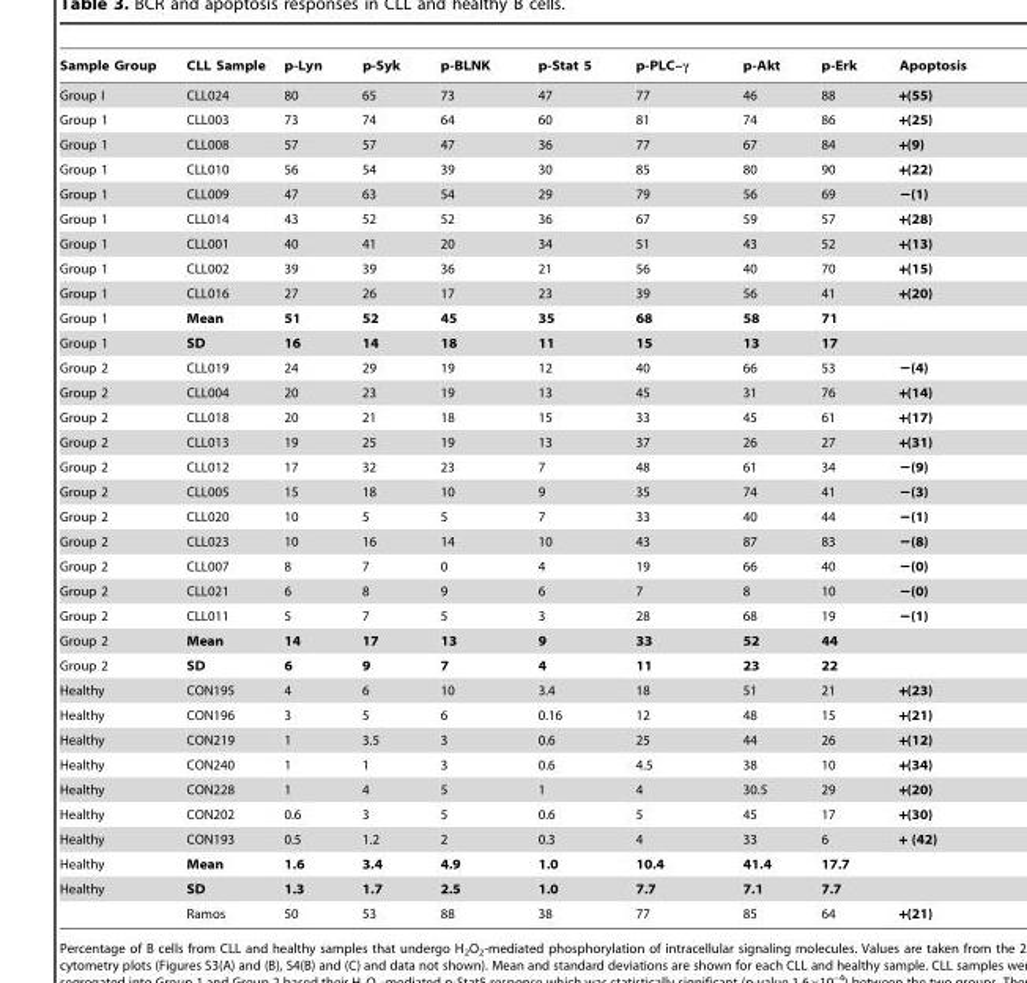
<table><thead><tr><td>Sample Group</td><td>CLL Sample</td><td>p-Lyn</td><td>p-Syk</td><td>p-BLNK</td><td>p-Stat 5</td><td>p-PLC–γ</td><td>p-Akt</td><td>p-Erk</td><td>Apoptosis</td></tr></thead><tbody><tr><td>Group I</td><td>CLL024</td><td>80</td><td>65</td><td>73</td><td>47</td><td>77</td><td>46</td><td>88</td><td>+(55)</td></tr><tr><td>Group 1</td><td>CLL003</td><td>73</td><td>74</td><td>64</td><td>60</td><td>81</td><td>74</td><td>86</td><td>+(25)</td></tr><tr><td>Group 1</td><td>CLL008</td><td>57</td><td>57</td><td>47</td><td>36</td><td>77</td><td>67</td><td>84</td><td>+(9)</td></tr><tr><td>Group 1</td><td>CLL010</td><td>56</td><td>54</td><td>39</td><td>30</td><td>85</td><td>80</td><td>90</td><td>+(22)</td></tr><tr><td>Group 1</td><td>CLL009</td><td>47</td><td>63</td><td>54</td><td>29</td><td>79</td><td>56</td><td>69</td><td>−(1)</td></tr><tr><td>Group 1</td><td>CLL014</td><td>43</td><td>52</td><td>52</td><td>36</td><td>67</td><td>59</td><td>57</td><td>+(28)</td></tr><tr><td>Group 1</td><td>CLL001</td><td>40</td><td>41</td><td>20</td><td>34</td><td>51</td><td>43</td><td>52</td><td>+(13)</td></tr><tr><td>Group 1</td><td>CLL002</td><td>39</td><td>39</td><td>36</td><td>21</td><td>56</td><td>40</td><td>70</td><td>+(15)</td></tr><tr><td>Group 1</td><td>CLL016</td><td>27</td><td>26</td><td>17</td><td>23</td><td>39</td><td>56</td><td>41</td><td>+(20)</td></tr><tr><td>Group 1</td><td>Mean</td><td>51</td><td>52</td><td>45</td><td>35</td><td>68</td><td>58</td><td>71</td><td></td></tr><tr><td>Group 1</td><td>SD</td><td>16</td><td>14</td><td>18</td><td>11</td><td>15</td><td>13</td><td>17</td><td></td></tr><tr><td>Group 2</td><td>CLL019</td><td>24</td><td>29</td><td>19</td><td>12</td><td>40</td><td>66</td><td>53</td><td>−(4)</td></tr><tr><td>Group 2</td><td>CLL004</td><td>20</td><td>23</td><td>19</td><td>13</td><td>45</td><td>31</td><td>76</td><td>+(14)</td></tr><tr><td>Group 2</td><td>CLL018</td><td>20</td><td>21</td><td>18</td><td>15</td><td>33</td><td>45</td><td>61</td><td>+(17)</td></tr><tr><td>Group 2</td><td>CLL013</td><td>19</td><td>25</td><td>19</td><td>13</td><td>37</td><td>26</td><td>27</td><td>+(31)</td></tr><tr><td>Group 2</td><td>CLL012</td><td>17</td><td>32</td><td>23</td><td>7</td><td>48</td><td>61</td><td>34</td><td>−(9)</td></tr><tr><td>Group 2</td><td>CLL005</td><td>15</td><td>18</td><td>10</td><td>9</td><td>35</td><td>74</td><td>41</td><td>−(3)</td></tr><tr><td>Group 2</td><td>CLL020</td><td>10</td><td>5</td><td>5</td><td>7</td><td>33</td><td>40</td><td>44</td><td>−(1)</td></tr><tr><td>Group 2</td><td>CLL023</td><td>10</td><td>16</td><td>14</td><td>10</td><td>43</td><td>87</td><td>83</td><td>−(8)</td></tr><tr><td>Group 2</td><td>CLL007</td><td>8</td><td>7</td><td>0</td><td>4</td><td>19</td><td>66</td><td>40</td><td>−(0)</td></tr><tr><td>Group 2</td><td>CLL021</td><td>6</td><td>8</td><td>9</td><td>6</td><td>7</td><td>8</td><td>10</td><td>−(0)</td></tr><tr><td>Group 2</td><td>CLL011</td><td>5</td><td>7</td><td>5</td><td>3</td><td>28</td><td>68</td><td>19</td><td>−(1)</td></tr><tr><td>Group 2</td><td>Mean</td><td>14</td><td>17</td><td>13</td><td>9</td><td>33</td><td>52</td><td>44</td><td></td></tr><tr><td>Group 2</td><td>SD</td><td>6</td><td>9</td><td>7</td><td>4</td><td>11</td><td>23</td><td>22</td><td></td></tr><tr><td>Healthy</td><td>CON195</td><td>4</td><td>6</td><td>10</td><td>3.4</td><td>18</td><td>51</td><td>21</td><td>+(23)</td></tr><tr><td>Healthy</td><td>CON196</td><td>3</td><td>5</td><td>6</td><td>0.16</td><td>12</td><td>48</td><td>15</td><td>+(21)</td></tr><tr><td>Healthy</td><td>CON219</td><td>1</td><td>3.5</td><td>3</td><td>0.6</td><td>25</td><td>44</td><td>26</td><td>+(12)</td></tr><tr><td>Healthy</td><td>CON240</td><td>1</td><td>1</td><td>3</td><td>0.6</td><td>4.5</td><td>38</td><td>10</td><td>+(34)</td></tr><tr><td>Healthy</td><td>CON228</td><td>1</td><td>4</td><td>5</td><td>1</td><td>4</td><td>30.5</td><td>29</td><td>+(20)</td></tr><tr><td>Healthy</td><td>CON202</td><td>0.6</td><td>3</td><td>5</td><td>0.6</td><td>5</td><td>45</td><td>17</td><td>+(30)</td></tr><tr><td>Healthy</td><td>CON193</td><td>0.5</td><td>1.2</td><td>2</td><td>0.3</td><td>4</td><td>33</td><td>6</td><td>+ (42)</td></tr><tr><td>Healthy</td><td>Mean</td><td>1.6</td><td>3.4</td><td>4.9</td><td>1.0</td><td>10.4</td><td>41.4</td><td>17.7</td><td></td></tr><tr><td rowspan="2">Healthy</td><td>SD</td><td>1.3</td><td>1.7</td><td>2.5</td><td>1.0</td><td>7.7</td><td>7.1</td><td>7.7</td><td></td></tr><tr><td>Ramos</td><td>50</td><td>53</td><td>88</td><td>38</td><td>77</td><td>85</td><td>64</td><td>+(21)</td></tr></tbody></table>